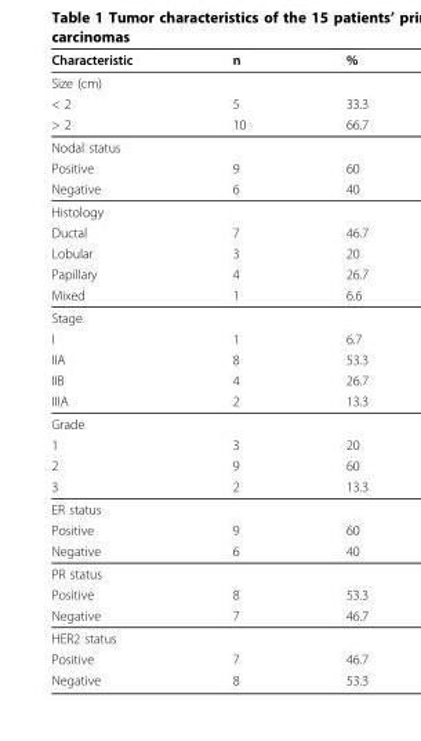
<table><thead><tr><td>Characteristic</td><td>n</td><td>%</td></tr></thead><tbody><tr><td colspan="3">Size (cm)</td></tr><tr><td>&lt; 2</td><td>5</td><td>33.3</td></tr><tr><td>&gt; 2</td><td>10</td><td>66.7</td></tr><tr><td colspan="3">Nodal status</td></tr><tr><td>Positive</td><td>9</td><td>60</td></tr><tr><td>Negative</td><td>6</td><td>40</td></tr><tr><td colspan="3">Histology</td></tr><tr><td>Ductal</td><td>7</td><td>46.7</td></tr><tr><td>Lobular</td><td>3</td><td>20</td></tr><tr><td>Papillary</td><td>4</td><td>26.7</td></tr><tr><td>Mixed</td><td>1</td><td>6.6</td></tr><tr><td colspan="3">Stage</td></tr><tr><td>I</td><td>1</td><td>6.7</td></tr><tr><td>IIA</td><td>8</td><td>53.3</td></tr><tr><td>IIB</td><td>4</td><td>26.7</td></tr><tr><td>IIIA</td><td>2</td><td>13.3</td></tr><tr><td colspan="3">Grade</td></tr><tr><td>1</td><td>3</td><td>20</td></tr><tr><td>2</td><td>9</td><td>60</td></tr><tr><td>3</td><td>2</td><td>13.3</td></tr><tr><td colspan="3">ER status</td></tr><tr><td>Positive</td><td>9</td><td>60</td></tr><tr><td>Negative</td><td>6</td><td>40</td></tr><tr><td colspan="3">PR status</td></tr><tr><td>Positive</td><td>8</td><td>53.3</td></tr><tr><td>Negative</td><td>7</td><td>46.7</td></tr><tr><td colspan="3">HER2 status</td></tr><tr><td>Positive</td><td>7</td><td>46.7</td></tr><tr><td>Negative</td><td>8</td><td>53.3</td></tr></tbody></table>